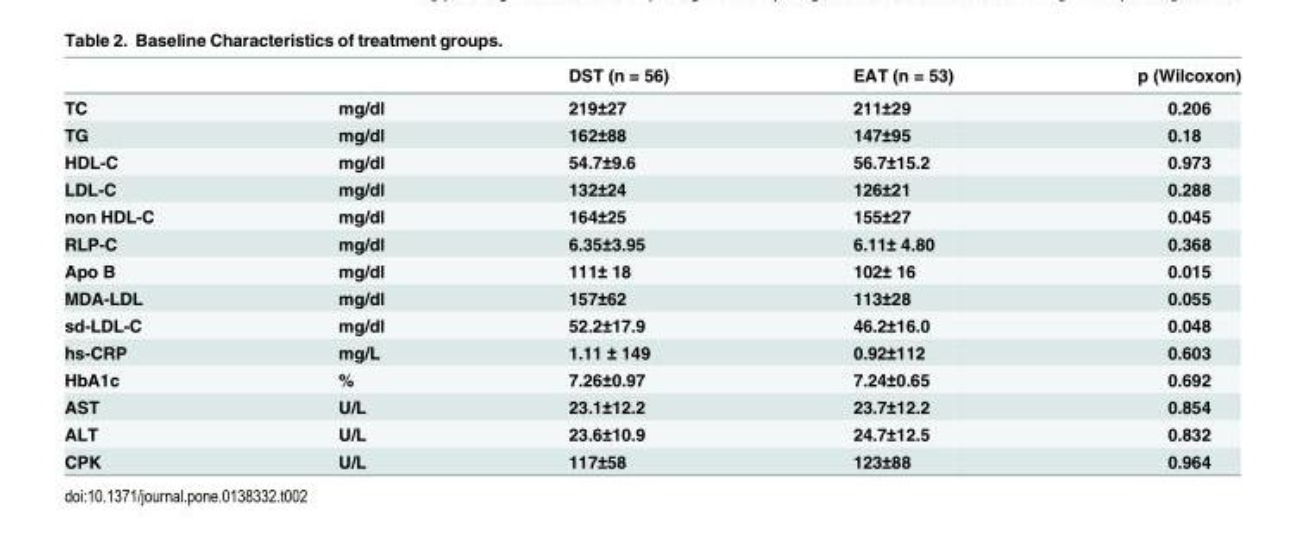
<table><thead><tr><td></td><td></td><td>DST (n = 56)</td><td>EAT (n = 53)</td><td>p (Wilcoxon)</td></tr></thead><tbody><tr><td>TC</td><td>mg/dl</td><td>219±27</td><td>211±29</td><td>0.206</td></tr><tr><td>TG</td><td>mg/dl</td><td>162±88</td><td>147±95</td><td>0.18</td></tr><tr><td>HDL-C</td><td>mg/dl</td><td>54.7±9.6</td><td>56.7±15.2</td><td>0.973</td></tr><tr><td>LDL-C</td><td>mg/dl</td><td>132±24</td><td>126±21</td><td>0.288</td></tr><tr><td>non HDL-C</td><td>mg/dl</td><td>164±25</td><td>155±27</td><td>0.045</td></tr><tr><td>RLP-C</td><td>mg/dl</td><td>6.35±3.95</td><td>6.11± 4.80</td><td>0.368</td></tr><tr><td>Apo B</td><td>mg/dl</td><td>111± 18</td><td>102± 16</td><td>0.015</td></tr><tr><td>MDA-LDL</td><td>mg/dl</td><td>157±62</td><td>113±28</td><td>0.055</td></tr><tr><td>sd-LDL-C</td><td>mg/dl</td><td>52.2±17.9</td><td>46.2±16.0</td><td>0.048</td></tr><tr><td>hs-CRP</td><td>mg/L</td><td>1.11 ± 149</td><td>0.92±112</td><td>0.603</td></tr><tr><td>HbA1c</td><td>%</td><td>7.26±0.97</td><td>7.24±0.65</td><td>0.692</td></tr><tr><td>AST</td><td>U/L</td><td>23.1±12.2</td><td>23.7±12.2</td><td>0.854</td></tr><tr><td>ALT</td><td>U/L</td><td>23.6±10.9</td><td>24.7±12.5</td><td>0.832</td></tr><tr><td>CPK</td><td>U/L</td><td>117±58</td><td>123±88</td><td>0.964</td></tr></tbody></table>